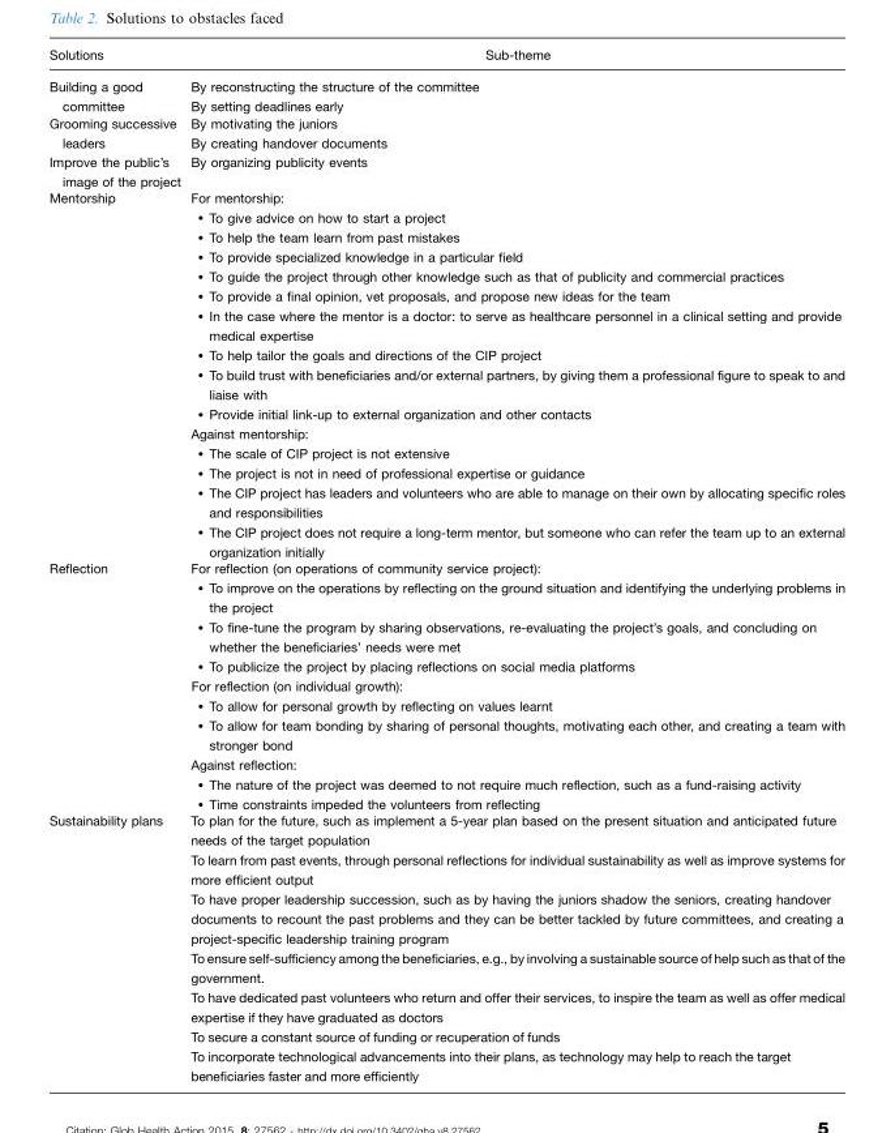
<table><thead><tr><td>Solutions</td><td>Sub-theme</td></tr></thead><tbody><tr><td>Building a good committee</td><td>By reconstructing the structure of the committee By setting deadlines early</td></tr><tr><td>Grooming successive leaders</td><td>By motivating the juniors By creating handover documents</td></tr><tr><td>Improve the public’s image of the project</td><td>By organizing publicity events</td></tr><tr><td>Mentorship</td><td>For mentorship: � To give advice on how to start a project � To help the team learn from past mistakes � To provide specialized knowledge in a particular field � To guide the project through other knowledge such as that of publicity and commercial practices � To provide a final opinion, vet proposals, and propose new ideas for the team � In the case where the mentor is a doctor: to serve as healthcare personnel in a clinical setting and provide medical expertise � To help tailor the goals and directions of the CIP project � To build trust with beneficiaries and/or external partners, by giving them a professional figure to speak to and liaise with � Provide initial link-up to external organization and other contacts Against mentorship: � The scale of CIP project is not extensive � The project is not in need of professional expertise or guidance � The CIP project has leaders and volunteers who are able to manage on their own by allocating specific roles and responsibilities � The CIP project does not require a long-term mentor, but someone who can refer the team up to an external organization initially</td></tr><tr><td>Reflection</td><td>For reflection (on operations of community service project): � To improve on the operations by reflecting on the ground situation and identifying the underlying problems in the project � To fine-tune the program by sharing observations, re-evaluating the project’s goals, and concluding on whether the beneficiaries’ needs were met � To publicize the project by placing reflections on social media platforms For reflection (on individual growth): � To allow for personal growth by reflecting on values learnt � To allow for team bonding by sharing of personal thoughts, motivating each other, and creating a team with stronger bond Against reflection: � The nature of the project was deemed to not require much reflection, such as a fund-raising activity � Time constraints impeded the volunteers from reflecting</td></tr><tr><td>Sustainability plans</td><td>To plan for the future, such as implement a 5-year plan based on the present situation and anticipated future needs of the target population To learn from past events, through personal reflections for individual sustainability as well as improve systems for more efficient output To have proper leadership succession, such as by having the juniors shadow the seniors, creating handover documents to recount the past problems and they can be better tackled by future committees, and creating a project-specific leadership training program To ensure self-sufficiency among the beneficiaries, e.g., by involving a sustainable source of help such as that of the government. To have dedicated past volunteers who return and offer their services, to inspire the team as well as offer medical expertise if they have graduated as doctors To secure a constant source of funding or recuperation of funds To incorporate technological advancements into their plans, as technology may help to reach the target beneficiaries faster and more efficiently</td></tr></tbody></table>